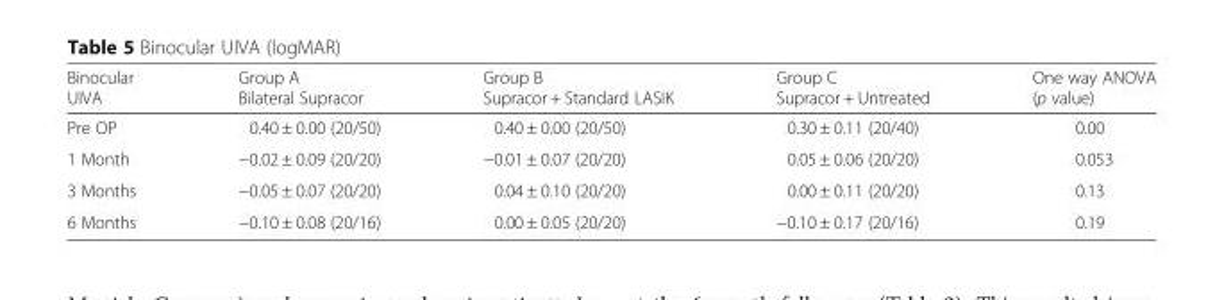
<table><thead><tr><td>Binocular UIVA</td><td>Group A Bilateral Supracor</td><td>Group B Supracor + Standard LASIK</td><td>Group C Supracor + Untreated</td><td>One way ANOVA (p value)</td></tr></thead><tbody><tr><td>Pre OP</td><td>0.40 ± 0.00 (20/50)</td><td>0.40 ± 0.00 (20/50)</td><td>0.30 ± 0.11 (20/40)</td><td>0.00</td></tr><tr><td>1 Month</td><td>−0.02 ± 0.09 (20/20)</td><td>−0.01 ± 0.07 (20/20)</td><td>0.05 ± 0.06 (20/20)</td><td>0.053</td></tr><tr><td>3 Months</td><td>−0.05 ± 0.07 (20/20)</td><td>0.04 ± 0.10 (20/20)</td><td>0.00 ± 0.11 (20/20)</td><td>0.13</td></tr><tr><td>6 Months</td><td>−0.10 ± 0.08 (20/16)</td><td>0.00 ± 0.05 (20/20)</td><td>−0.10 ± 0.17 (20/16)</td><td>0.19</td></tr></tbody></table>